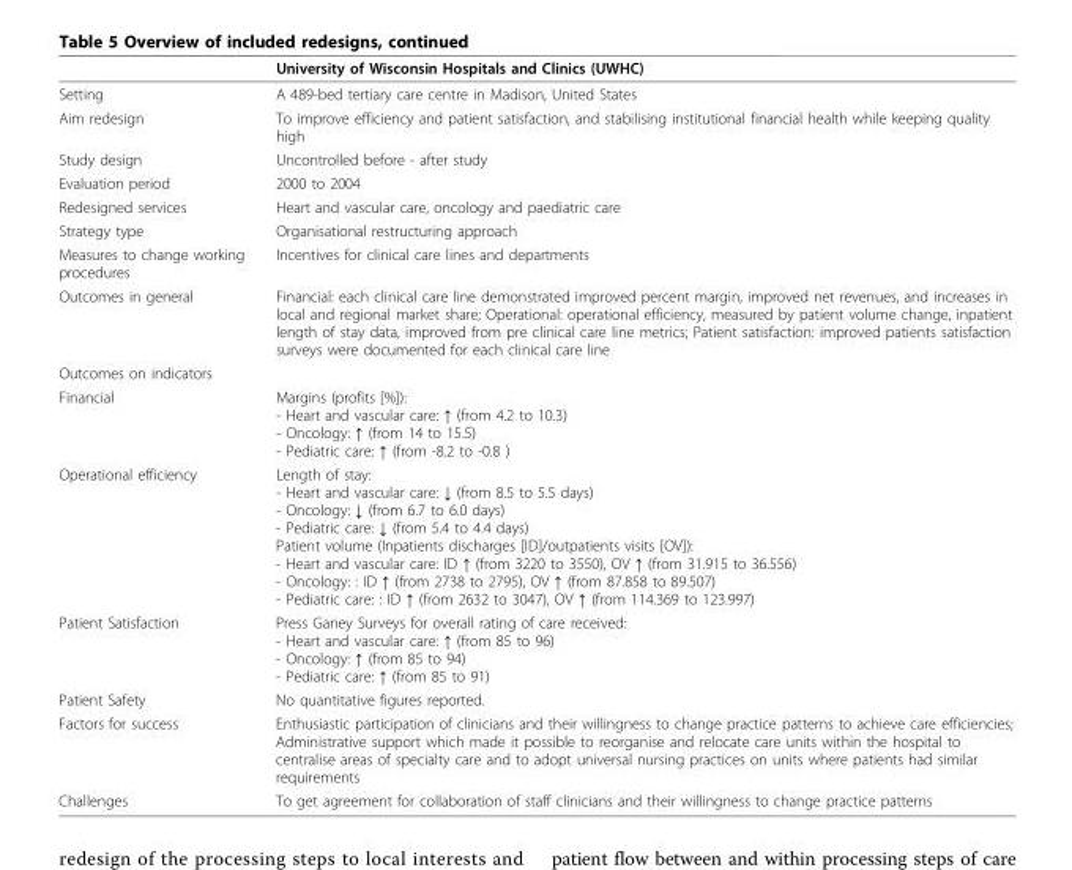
<table><thead><tr><td></td><td>University of Wisconsin Hospitals and Clinics (UWHC)</td></tr></thead><tbody><tr><td>Setting</td><td>A 489-bed tertiary care centre in Madison, United States</td></tr><tr><td>Aim redesign</td><td>To improve efficiency and patient satisfaction, and stabilising institutional financial health while keeping quality high</td></tr><tr><td>Study design</td><td>Uncontrolled before - after study</td></tr><tr><td>Evaluation period</td><td>2000 to 2004</td></tr><tr><td>Redesigned services</td><td>Heart and vascular care, oncology and paediatric care</td></tr><tr><td>Strategy type</td><td>Organisational restructuring approach</td></tr><tr><td>Measures to change working procedures</td><td>Incentives for clinical care lines and departments</td></tr><tr><td>Outcomes in general</td><td>Financial: each clinical care line demonstrated improved percent margin, improved net revenues, and increases in local and regional market share; Operational: operational efficiency, measured by patient volume change, inpatient length of stay data, improved from pre clinical care line metrics; Patient satisfaction: improved patients satisfaction surveys were documented for each clinical care line</td></tr><tr><td colspan="2">Outcomes on indicators</td></tr><tr><td>Financial</td><td>Margins (profits [%]): - Heart and vascular care: ↑ (from 4.2 to 10.3) - Oncology: ↑ (from 14 to 15.5) - Pediatric care: ↑ (from -8.2 to -0.8 )</td></tr><tr><td>Operational efficiency</td><td>Length of stay: - Heart and vascular care: ↓ (from 8.5 to 5.5 days) - Oncology: ↓ (from 6.7 to 6.0 days) - Pediatric care: ↓ (from 5.4 to 4.4 days) Patient volume (Inpatients discharges [ID]/outpatients visits [OV]): - Heart and vascular care: ID ↑ (from 3220 to 3550), OV ↑ (from 31.915 to 36.556) - Oncology: : ID ↑ (from 2738 to 2795), OV ↑ (from 87.858 to 89.507) - Pediatric care: : ID ↑ (from 2632 to 3047), OV ↑ (from 114.369 to 123.997)</td></tr><tr><td>Patient Satisfaction</td><td>Press Ganey Surveys for overall rating of care received: - Heart and vascular care: ↑ (from 85 to 96) - Oncology: ↑ (from 85 to 94) - Pediatric care: ↑ (from 85 to 91)</td></tr><tr><td>Patient Safety</td><td>No quantitative figures reported.</td></tr><tr><td>Factors for success</td><td>Enthusiastic participation of clinicians and their willingness to change practice patterns to achieve care efficiencies; Administrative support which made it possible to reorganise and relocate care units within the hospital to centralise areas of specialty care and to adopt universal nursing practices on units where patients had similar requirements</td></tr><tr><td>Challenges</td><td>To get agreement for collaboration of staff clinicians and their willingness to change practice patterns</td></tr></tbody></table>